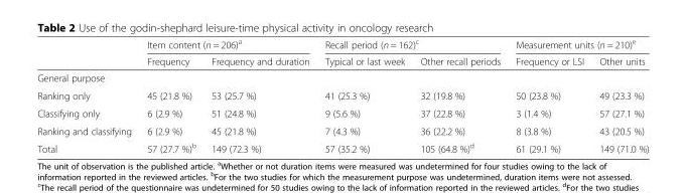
<table><thead><tr><td rowspan="2"></td><td colspan="2">Item content (n = 206)<sup>a</sup></td><td colspan="2">Recall period (n = 162)<sup>c</sup></td><td colspan="2">Measurement units (n = 210)<sup>e</sup></td></tr><tr><td>Frequency</td><td>Frequency and duration</td><td>Typical or last week</td><td>Other recall periods</td><td>Frequency or LSI</td><td>Other units</td></tr></thead><tbody><tr><td colspan="7">General purpose</td></tr><tr><td>Ranking only</td><td>45 (21.8 %)</td><td>53 (25.7 %)</td><td>41 (25.3 %)</td><td>32 (19.8 %)</td><td>50 (23.8 %)</td><td>49 (23.3 %)</td></tr><tr><td>Classifying only</td><td>6 (2.9 %)</td><td>51 (24.8 %)</td><td>9 (5.6 %)</td><td>37 (22.8 %)</td><td>3 (1.4 %)</td><td>57 (27.1 %)</td></tr><tr><td>Ranking and classifying</td><td>6 (2.9 %)</td><td>45 (21.8 %)</td><td>7 (4.3 %)</td><td>36 (22.2 %)</td><td>8 (3.8 %)</td><td>43 (20.5 %)</td></tr><tr><td>Total</td><td>57 (27.7 %)<sup>b</sup></td><td>149 (72.3 %)</td><td>57 (35.2 %)</td><td>105 (64.8 %)<sup>d</sup></td><td>61 (29.1 %)</td><td>149 (71.0 %)</td></tr></tbody></table>